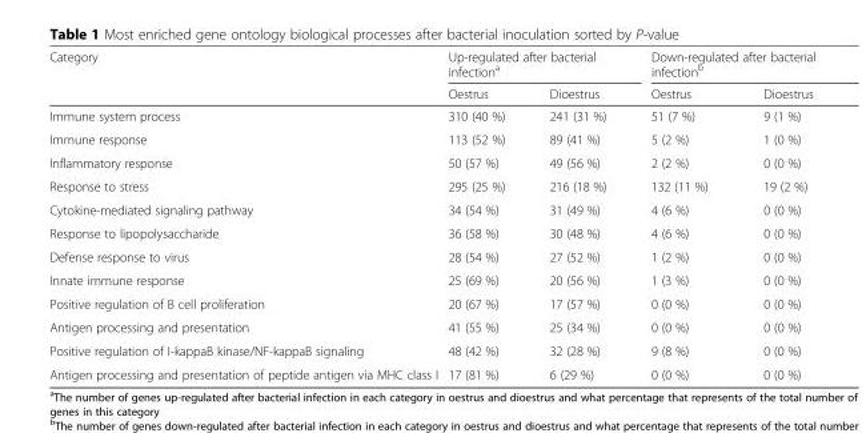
<table><thead><tr><td rowspan="2">Category</td><td colspan="2">Up-regulated after bacterial infection<sup>a</sup></td><td colspan="2">Down-regulated after bacterial infection<sup>b</sup></td></tr><tr><td>Oestrus</td><td>Dioestrus</td><td>Oestrus</td><td>Dioestrus</td></tr></thead><tbody><tr><td>Immune system process</td><td>310 (40 %)</td><td>241 (31 %)</td><td>51 (7 %)</td><td>9 (1 %)</td></tr><tr><td>Immune response</td><td>113 (52 %)</td><td>89 (41 %)</td><td>5 (2 %)</td><td>1 (0 %)</td></tr><tr><td>Inflammatory response</td><td>50 (57 %)</td><td>49 (56 %)</td><td>2 (2 %)</td><td>0 (0 %)</td></tr><tr><td>Response to stress</td><td>295 (25 %)</td><td>216 (18 %)</td><td>132 (11 %)</td><td>19 (2 %)</td></tr><tr><td>Cytokine-mediated signaling pathway</td><td>34 (54 %)</td><td>31 (49 %)</td><td>4 (6 %)</td><td>0 (0 %)</td></tr><tr><td>Response to lipopolysaccharide</td><td>36 (58 %)</td><td>30 (48 %)</td><td>4 (6 %)</td><td>0 (0 %)</td></tr><tr><td>Defense response to virus</td><td>28 (54 %)</td><td>27 (52 %)</td><td>1 (2 %)</td><td>0 (0 %)</td></tr><tr><td>Innate immune response</td><td>25 (69 %)</td><td>20 (56 %)</td><td>1 (3 %)</td><td>0 (0 %)</td></tr><tr><td>Positive regulation of B cell proliferation</td><td>20 (67 %)</td><td>17 (57 %)</td><td>0 (0 %)</td><td>0 (0 %)</td></tr><tr><td>Antigen processing and presentation</td><td>41 (55 %)</td><td>25 (34 %)</td><td>0 (0 %)</td><td>0 (0 %)</td></tr><tr><td>Positive regulation of I-kappaB kinase/NF-kappaB signaling</td><td>48 (42 %)</td><td>32 (28 %)</td><td>9 (8 %)</td><td>0 (0 %)</td></tr><tr><td>Antigen processing and presentation of peptide antigen via MHC class I</td><td>17 (81 %)</td><td>6 (29 %)</td><td>0 (0 %)</td><td>0 (0 %)</td></tr></tbody></table>